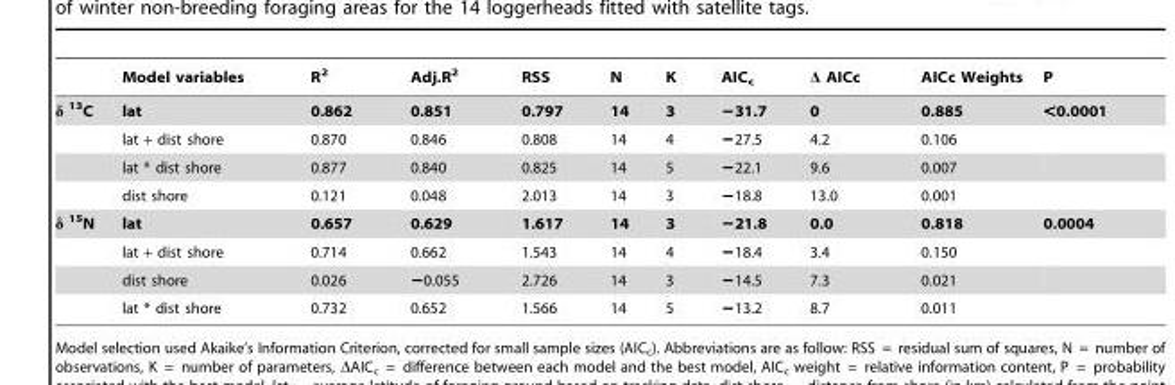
<table><thead><tr><td></td><td>Model variables</td><td>R<sup>2</sup></td><td>Adj.R<sup>2</sup></td><td>RSS</td><td>N</td><td>K</td><td>AIC<sub>c</sub></td><td>Δ AICc</td><td>AICc Weights</td><td>P</td></tr></thead><tbody><tr><td rowspan="4">13C</td><td>lat</td><td>0.862</td><td>0.851</td><td>0.797</td><td>14</td><td>3</td><td>−31.7</td><td>0</td><td>0.885</td><td>&lt;0.0001</td></tr><tr><td>lat + dist shore</td><td>0.870</td><td>0.846</td><td>0.808</td><td>14</td><td>4</td><td>−27.5</td><td>4.2</td><td>0.106</td><td></td></tr><tr><td>lat * dist shore</td><td>0.877</td><td>0.840</td><td>0.825</td><td>14</td><td>5</td><td>−22.1</td><td>9.6</td><td>0.007</td><td></td></tr><tr><td>dist shore</td><td>0.121</td><td>0.048</td><td>2.013</td><td>14</td><td>3</td><td>−18.8</td><td>13.0</td><td>0.001</td><td></td></tr><tr><td rowspan="4">15N</td><td>lat</td><td>0.657</td><td>0.629</td><td>1.617</td><td>14</td><td>3</td><td>−21.8</td><td>0.0</td><td>0.818</td><td>0.0004</td></tr><tr><td>lat + dist shore</td><td>0.714</td><td>0.662</td><td>1.543</td><td>14</td><td>4</td><td>−18.4</td><td>3.4</td><td>0.150</td><td></td></tr><tr><td>dist shore</td><td>0.026</td><td>−0.055</td><td>2.726</td><td>14</td><td>3</td><td>−14.5</td><td>7.3</td><td>0.021</td><td></td></tr><tr><td>lat * dist shore</td><td>0.732</td><td>0.652</td><td>1.566</td><td>14</td><td>5</td><td>−13.2</td><td>8.7</td><td>0.011</td><td></td></tr></tbody></table>